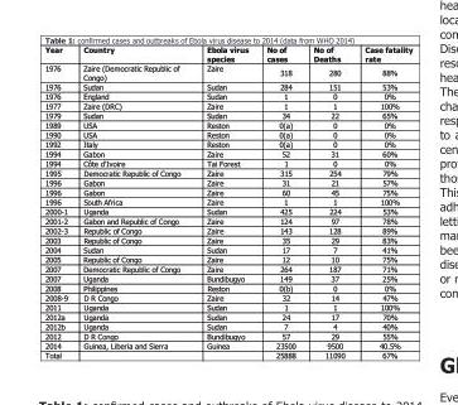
<table><thead><tr><td>Year</td><td>Country</td><td>Ebola virus species</td><td>No of cases</td><td>No of Deaths</td><td>Case fatality rate</td></tr></thead><tbody><tr><td>1976</td><td>Zaire (Democratic Republic of Congo)</td><td>Zaire</td><td>318</td><td>280</td><td>88%</td></tr><tr><td>1976</td><td>Sudan</td><td>Sudan</td><td>284</td><td>151</td><td>53%</td></tr><tr><td>1976</td><td>England</td><td>Sudan</td><td>1</td><td>0</td><td>0%</td></tr><tr><td>1977</td><td>Zaire (DRC)</td><td>Zaire</td><td>1</td><td>1</td><td>100%</td></tr><tr><td>1979</td><td>Sudan</td><td>Sudan</td><td>34</td><td>22</td><td>65%</td></tr><tr><td>1989</td><td>USA</td><td>Reston</td><td>0(a)</td><td>0</td><td>0%</td></tr><tr><td>1990</td><td>USA</td><td>Reston</td><td>0(a)</td><td>0</td><td>0%</td></tr><tr><td>1992</td><td>Italy</td><td>Reston</td><td>0(a)</td><td>0</td><td>0%</td></tr><tr><td>1994</td><td>Gabon</td><td>Zaire</td><td>52</td><td>31</td><td>60%</td></tr><tr><td>1994</td><td>Côte d’Ivoire</td><td>Tai Forest</td><td>1</td><td>0</td><td>0%</td></tr><tr><td>1995</td><td>Democratic Republic of Congo</td><td>Zaire</td><td>315</td><td>254</td><td>79%</td></tr><tr><td>1996</td><td>Gabon</td><td>Zaire</td><td>31</td><td>21</td><td>57%</td></tr><tr><td>1996</td><td>Gabon</td><td>Zaire</td><td>60</td><td>45</td><td>75%</td></tr><tr><td>1996</td><td>South Africa</td><td>Zaire</td><td>1</td><td>1</td><td>100%</td></tr><tr><td>20001</td><td>Uganda</td><td>Sudan</td><td>425</td><td>224</td><td>53%</td></tr><tr><td>20012</td><td>Gabon and Republic of Congo</td><td>Zaire</td><td>124</td><td>97</td><td>78%</td></tr><tr><td>20023</td><td>Republic of Congo</td><td>Zaire</td><td>143</td><td>128</td><td>89%</td></tr><tr><td>2003</td><td>Republic of Congo</td><td>Zaire</td><td>35</td><td>29</td><td>83%</td></tr><tr><td>2004</td><td>Sudan</td><td>Sudan</td><td>17</td><td>7</td><td>41%</td></tr><tr><td>2005</td><td>Republic of Congo</td><td>Zaire</td><td>12</td><td>10</td><td>75%</td></tr><tr><td>2007</td><td>Democratic Republic of Congo</td><td>Zaire</td><td>264</td><td>187</td><td>71%</td></tr><tr><td>2007</td><td>Uganda</td><td>Bundibugyo</td><td>149</td><td>37</td><td>25%</td></tr><tr><td>2008</td><td>Philippines</td><td>Reston</td><td>0(b)</td><td>0</td><td>0%</td></tr><tr><td>20089</td><td>D R Congo</td><td>Zaire</td><td>32</td><td>14</td><td>47%</td></tr><tr><td>2011</td><td>Uganda</td><td>Sudan</td><td>1</td><td>1</td><td>100%</td></tr><tr><td>2012a</td><td>Uganda</td><td>Sudan</td><td>24</td><td>17</td><td>70%</td></tr><tr><td>2012b</td><td>Uganda</td><td>Sudan</td><td>7</td><td>4</td><td>40%</td></tr><tr><td>2012</td><td>D R Congo</td><td>Bundibugyo</td><td>57</td><td>29</td><td>55%</td></tr><tr><td>2014</td><td>Guinea, Liberia and Sierra</td><td>Guinea</td><td>23500</td><td>9500</td><td>40.5%</td></tr><tr><td>Total</td><td></td><td></td><td>25888</td><td>11090</td><td>67%</td></tr></tbody></table>